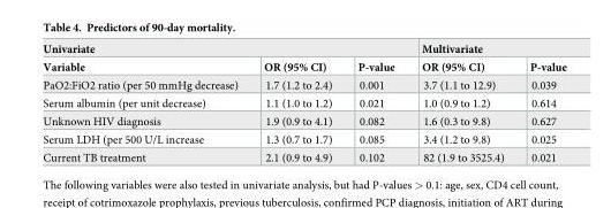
<table><thead><tr><td colspan="3">Univariate</td><td colspan="2">Multivariate</td></tr><tr><td>Variable</td><td>OR (95% CI)</td><td>P-value</td><td>OR (95% CI)</td><td>P-value</td></tr></thead><tbody><tr><td>PaO2:FiO2 ratio (per 50 mmHg decrease)</td><td>1.7 (1.2 to 2.4)</td><td>0.001</td><td>3.7 (1.1 to 12.9)</td><td>0.039</td></tr><tr><td>Serum albumin (per unit decrease)</td><td>1.1 (1.0 to 1.2)</td><td>0.021</td><td>1.0 (0.9 to 1.2)</td><td>0.614</td></tr><tr><td>Unknown HIV diagnosis</td><td>1.9 (0.9 to 4.1)</td><td>0.082</td><td>1.6 (0.3 to 9.8)</td><td>0.627</td></tr><tr><td>Serum LDH (per 500 U/L increase</td><td>1.3 (0.7 to 1.7)</td><td>0.085</td><td>3.4 (1.2 to 9.8)</td><td>0.025</td></tr><tr><td>Current TB treatment</td><td>2.1 (0.9 to 4.9)</td><td>0.102</td><td>82 (1.9 to 3525.4)</td><td>0.021</td></tr></tbody></table>